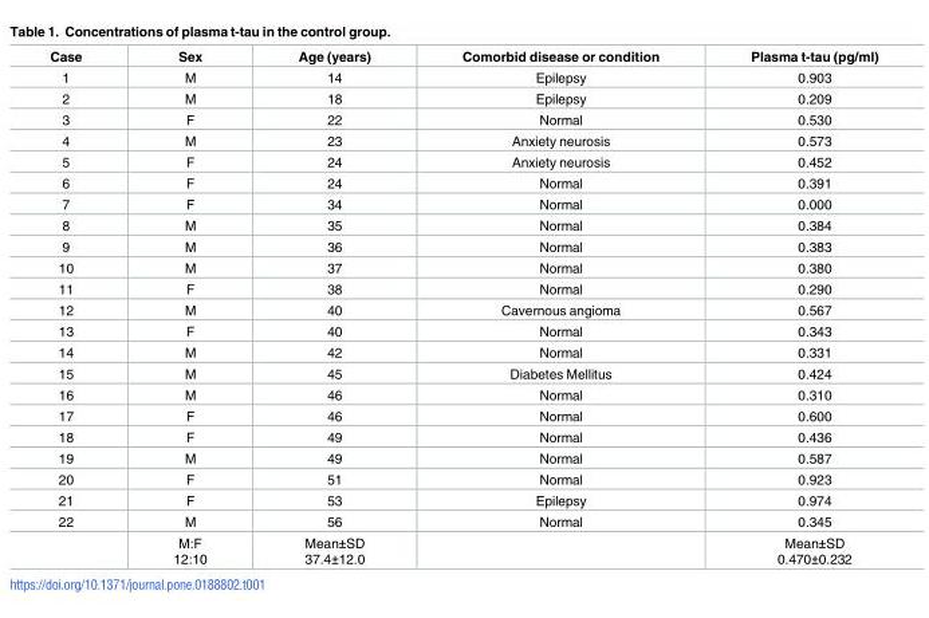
<table><thead><tr><td>Case</td><td>Sex</td><td>Age (years)</td><td>Comorbid disease or condition</td><td>Plasma t-tau (pg/ml)</td></tr></thead><tbody><tr><td>1</td><td>M</td><td>14</td><td>Epilepsy</td><td>0.903</td></tr><tr><td>2</td><td>M</td><td>18</td><td>Epilepsy</td><td>0.209</td></tr><tr><td>3</td><td>F</td><td>22</td><td>Normal</td><td>0.530</td></tr><tr><td>4</td><td>M</td><td>23</td><td>Anxiety neurosis</td><td>0.573</td></tr><tr><td>5</td><td>F</td><td>24</td><td>Anxiety neurosis</td><td>0.452</td></tr><tr><td>6</td><td>F</td><td>24</td><td>Normal</td><td>0.391</td></tr><tr><td>7</td><td>F</td><td>34</td><td>Normal</td><td>0.000</td></tr><tr><td>8</td><td>M</td><td>35</td><td>Normal</td><td>0.384</td></tr><tr><td>9</td><td>M</td><td>36</td><td>Normal</td><td>0.383</td></tr><tr><td>10</td><td>M</td><td>37</td><td>Normal</td><td>0.380</td></tr><tr><td>11</td><td>F</td><td>38</td><td>Normal</td><td>0.290</td></tr><tr><td>12</td><td>M</td><td>40</td><td>Cavernous angioma</td><td>0.567</td></tr><tr><td>13</td><td>F</td><td>40</td><td>Normal</td><td>0.343</td></tr><tr><td>14</td><td>M</td><td>42</td><td>Normal</td><td>0.331</td></tr><tr><td>15</td><td>M</td><td>45</td><td>Diabetes Mellitus</td><td>0.424</td></tr><tr><td>16</td><td>M</td><td>46</td><td>Normal</td><td>0.310</td></tr><tr><td>17</td><td>F</td><td>46</td><td>Normal</td><td>0.600</td></tr><tr><td>18</td><td>F</td><td>49</td><td>Normal</td><td>0.436</td></tr><tr><td>19</td><td>M</td><td>49</td><td>Normal</td><td>0.587</td></tr><tr><td>20</td><td>F</td><td>51</td><td>Normal</td><td>0.923</td></tr><tr><td>21</td><td>F</td><td>53</td><td>Epilepsy</td><td>0.974</td></tr><tr><td rowspan="2">22</td><td>M</td><td>56</td><td>Normal</td><td>0.345</td></tr><tr><td>M:F 12:10</td><td>Mean±SD 37.4±12.0</td><td></td><td>Mean±SD 0.470±0.232</td></tr></tbody></table>